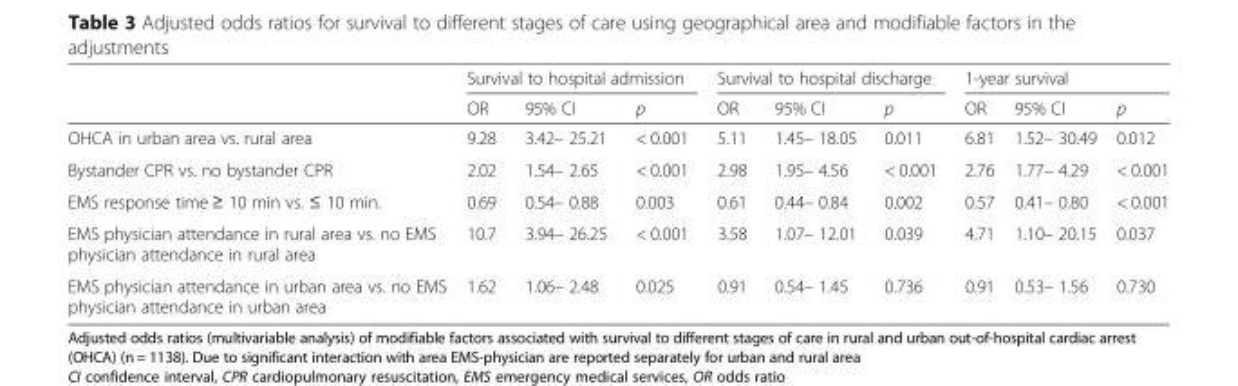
<table><thead><tr><td rowspan="2"></td><td colspan="3">Survival to hospital admission</td><td colspan="3">Survival to hospital discharge</td><td colspan="3">1-year survival</td></tr><tr><td>OR</td><td>95% CI</td><td>p</td><td>OR</td><td>95% CI</td><td>p</td><td>OR</td><td>95% CI</td><td>p</td></tr></thead><tbody><tr><td>OHCA in urban area vs. rural area</td><td>9.28</td><td>3.42– 25.21</td><td>&lt; 0.001</td><td>5.11</td><td>1.45– 18.05</td><td>0.011</td><td>6.81</td><td>1.52– 30.49</td><td>0.012</td></tr><tr><td>Bystander CPR vs. no bystander CPR</td><td>2.02</td><td>1.54– 2.65</td><td>&lt; 0.001</td><td>2.98</td><td>1.95– 4.56</td><td>&lt; 0.001</td><td>2.76</td><td>1.77– 4.29</td><td>&lt; 0.001</td></tr><tr><td>EMS response time ≥ 10 min vs. ≤ 10 min.</td><td>0.69</td><td>0.54– 0.88</td><td>0.003</td><td>0.61</td><td>0.44– 0.84</td><td>0.002</td><td>0.57</td><td>0.41– 0.80</td><td>&lt; 0.001</td></tr><tr><td>EMS physician attendance in rural area vs. no EMS physician attendance in rural area</td><td>10.7</td><td>3.94– 26.25</td><td>&lt; 0.001</td><td>3.58</td><td>1.07– 12.01</td><td>0.039</td><td>4.71</td><td>1.10– 20.15</td><td>0.037</td></tr><tr><td>EMS physician attendance in urban area vs. no EMS physician attendance in urban area</td><td>1.62</td><td>1.06– 2.48</td><td>0.025</td><td>0.91</td><td>0.54– 1.45</td><td>0.736</td><td>0.91</td><td>0.53– 1.56</td><td>0.730</td></tr></tbody></table>